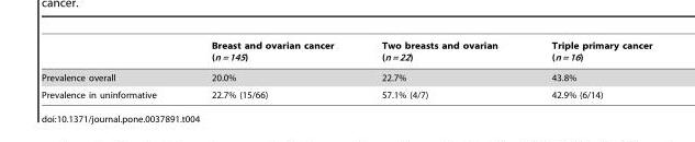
<table><thead><tr><td></td><td>Breast and ovarian cancer (n = 145)</td><td>Two breasts and ovarian (n = 22)</td><td>Triple primary cancer (n = 16)</td></tr></thead><tbody><tr><td>Prevalence overall</td><td>20.0%</td><td>22.7%</td><td>43.8%</td></tr><tr><td>Prevalence in uninformative</td><td>22.7% (15/66)</td><td>57.1% (4/7)</td><td>42.9% (6/14)</td></tr></tbody></table>